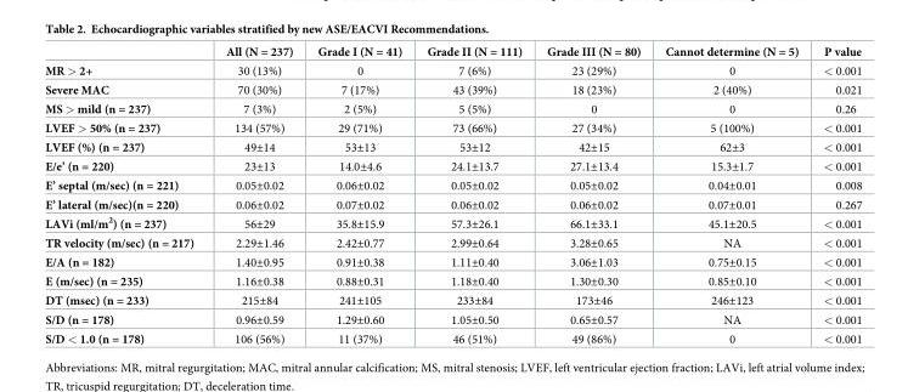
<table><thead><tr><td></td><td>All (N = 237)</td><td>Grade I (N = 41)</td><td>Grade II (N = 111)</td><td>Grade III (N = 80)</td><td>Cannot determine (N = 5)</td><td>P value</td></tr></thead><tbody><tr><td>MR &gt; 2+</td><td>30 (13%)</td><td>0</td><td>7 (6%)</td><td>23 (29%)</td><td>0</td><td>&lt; 0.001</td></tr><tr><td>Severe MAC</td><td>70 (30%)</td><td>7 (17%)</td><td>43 (39%)</td><td>18 (23%)</td><td>2 (40%)</td><td>0.021</td></tr><tr><td>MS &gt; mild (n = 237)</td><td>7 (3%)</td><td>2 (5%)</td><td>5 (5%)</td><td>0</td><td>0</td><td>0.26</td></tr><tr><td>LVEF &gt; 50% (n = 237)</td><td>134 (57%)</td><td>29 (71%)</td><td>73 (66%)</td><td>27 (34%)</td><td>5 (100%)</td><td>&lt; 0.001</td></tr><tr><td>LVEF (%) (n = 237)</td><td>49±14</td><td>53±13</td><td>53±12</td><td>42±15</td><td>62±3</td><td>&lt; 0.001</td></tr><tr><td>E/e’ (n = 220)</td><td>23±13</td><td>14.0±4.6</td><td>24.1±13.7</td><td>27.1±13.4</td><td>15.3±1.7</td><td>&lt; 0.001</td></tr><tr><td>E’ septal (m/sec) (n = 221)</td><td>0.05±0.02</td><td>0.06±0.02</td><td>0.05±0.02</td><td>0.05±0.02</td><td>0.04±0.01</td><td>0.008</td></tr><tr><td>E’ lateral (m/sec)(n = 220)</td><td>0.06±0.02</td><td>0.07±0.02</td><td>0.06±0.02</td><td>0.06±0.02</td><td>0.07±0.01</td><td>0.267</td></tr><tr><td>LAVi (ml/m<sup>2</sup>) (n = 237)</td><td>56±29</td><td>35.8±15.9</td><td>57.3±26.1</td><td>66.1±33.1</td><td>45.1±20.5</td><td>&lt; 0.001</td></tr><tr><td>TR velocity (m/sec) (n = 217)</td><td>2.29±1.46</td><td>2.42±0.77</td><td>2.99±0.64</td><td>3.28±0.65</td><td>NA</td><td>&lt; 0.001</td></tr><tr><td>E/A (n = 182)</td><td>1.40±0.95</td><td>0.91±0.38</td><td>1.11±0.40</td><td>3.06±1.03</td><td>0.75±0.15</td><td>&lt; 0.001</td></tr><tr><td>E (m/sec) (n = 235)</td><td>1.16±0.38</td><td>0.88±0.31</td><td>1.18±0.40</td><td>1.30±0.30</td><td>0.85±0.10</td><td>&lt; 0.001</td></tr><tr><td>DT (msec) (n = 233)</td><td>215±84</td><td>241±105</td><td>233±84</td><td>173±46</td><td>246±123</td><td>&lt; 0.001</td></tr><tr><td>S/D (n = 178)</td><td>0.96±0.59</td><td>1.29±0.60</td><td>1.05±0.50</td><td>0.65±0.57</td><td>NA</td><td>&lt; 0.001</td></tr><tr><td>S/D &lt; 1.0 (n = 178)</td><td>106 (56%)</td><td>11 (37%)</td><td>46 (51%)</td><td>49 (86%)</td><td>0</td><td>&lt; 0.001</td></tr></tbody></table>